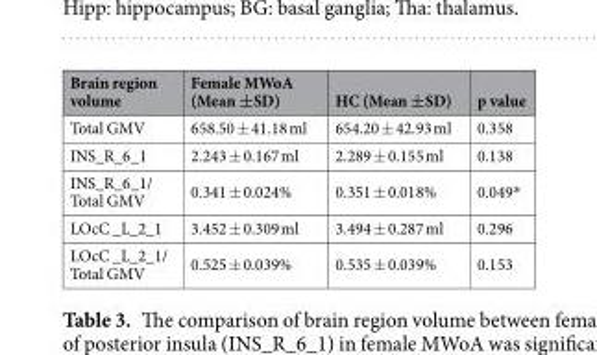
<table><thead><tr><td>Brain region volume</td><td>Female MWoA (Mean ±SD)</td><td>HC (Mean ±SD)</td><td>p value</td></tr></thead><tbody><tr><td>Total GMV</td><td>658.50 ± 41.18 ml</td><td>654.20 ± 42.93 ml</td><td>0.358</td></tr><tr><td>INS_R_6_1</td><td>2.243 ± 0.167 ml</td><td>2.289 ± 0.155 ml</td><td>0.138</td></tr><tr><td>INS_R_6_1/ Total GMV</td><td>0.341 ± 0.024%</td><td>0.351 ± 0.018%</td><td>0.049*</td></tr><tr><td>LOcC _L_2_1</td><td>3.452 ± 0.309 ml</td><td>3.494 ± 0.287 ml</td><td>0.296</td></tr><tr><td>LOcC _L_2_1/ Total GMV</td><td>0.525 ± 0.039%</td><td>0.535 ± 0.039%</td><td>0.153</td></tr></tbody></table>